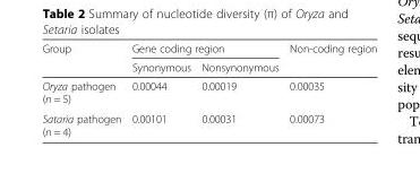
<table><thead><tr><td rowspan="2">Group</td><td colspan="2">Gene coding region</td><td rowspan="2">Non-coding region</td></tr><tr><td>Synonymous</td><td>Nonsynonymous</td></tr></thead><tbody><tr><td>Oryza pathogen (n = 5)</td><td>0.00044</td><td>0.00019</td><td>0.00035</td></tr><tr><td>Sataria pathogen (n = 4)</td><td>0.00101</td><td>0.00031</td><td>0.00073</td></tr></tbody></table>